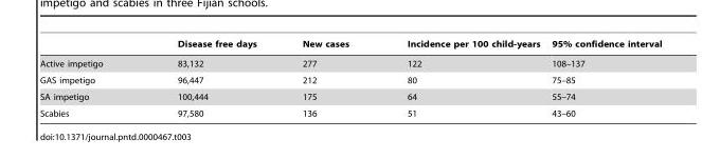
<table><thead><tr><td></td><td>Disease free days</td><td>New cases</td><td>Incidence per 100 child-years</td><td>95% confidence interval</td></tr></thead><tbody><tr><td>Active impetigo</td><td>83,132</td><td>277</td><td>122</td><td>108–137</td></tr><tr><td>GAS impetigo</td><td>96,447</td><td>212</td><td>80</td><td>75–85</td></tr><tr><td>SA impetigo</td><td>100,444</td><td>175</td><td>64</td><td>55–74</td></tr><tr><td>Scabies</td><td>97,580</td><td>136</td><td>51</td><td>43–60</td></tr></tbody></table>